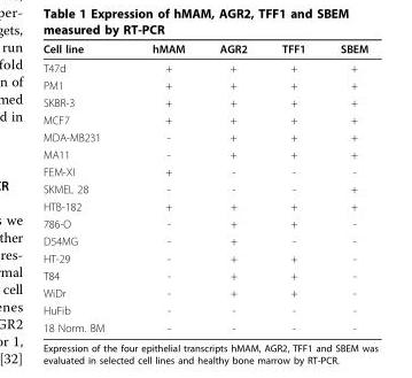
<table><thead><tr><td>Cell line</td><td>hMAM</td><td>AGR2</td><td>TFF1</td><td>SBEM</td></tr></thead><tbody><tr><td>T47d</td><td>+</td><td>+</td><td>+</td><td>+</td></tr><tr><td>PM1</td><td>+</td><td>+</td><td>+</td><td>+</td></tr><tr><td>SKBR-3</td><td>+</td><td>+</td><td>+</td><td>+</td></tr><tr><td>MCF7</td><td>+</td><td>+</td><td>+</td><td>+</td></tr><tr><td>MDA-MB231</td><td>-</td><td>+</td><td>+</td><td>+</td></tr><tr><td>MA11</td><td>-</td><td>+</td><td>+</td><td>+</td></tr><tr><td>FEM-XI</td><td>+</td><td>-</td><td>-</td><td>-</td></tr><tr><td>SKMEL 28</td><td>-</td><td>-</td><td>-</td><td>+</td></tr><tr><td>HTB-182</td><td>+</td><td>+</td><td>+</td><td>+</td></tr><tr><td>786-O</td><td>-</td><td>+</td><td>+</td><td>-</td></tr><tr><td>D54MG</td><td>-</td><td>+</td><td>-</td><td>-</td></tr><tr><td>HT-29</td><td>-</td><td>+</td><td>+</td><td>-</td></tr><tr><td>T84</td><td>-</td><td>+</td><td>+</td><td>-</td></tr><tr><td>WiDr</td><td>-</td><td>+</td><td>+</td><td>-</td></tr><tr><td>HuFib</td><td>-</td><td>-</td><td>-</td><td>-</td></tr><tr><td>18 Norm. BM</td><td>-</td><td>-</td><td>-</td><td>-</td></tr></tbody></table>